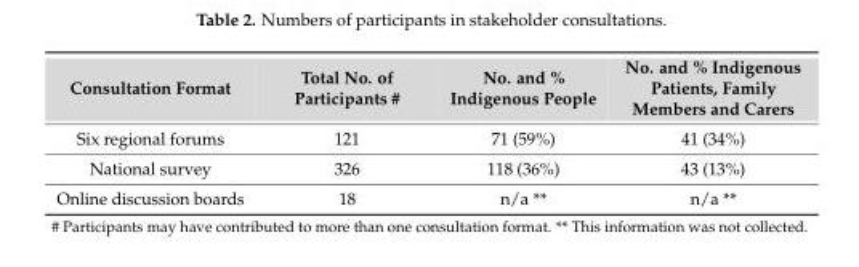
<table><thead><tr><td>Consultation Format</td><td>Total No. of Participants #</td><td>No. and % Indigenous People</td><td>No. and % Indigenous Patients, Family Members and Carers</td></tr></thead><tbody><tr><td>Six regional forums</td><td>121</td><td>71 (59%)</td><td>41 (34%)</td></tr><tr><td>National survey</td><td>326</td><td>118 (36%)</td><td>43 (13%)</td></tr><tr><td>Online discussion boards</td><td>18</td><td>n/a **</td><td>n/a **</td></tr></tbody></table>